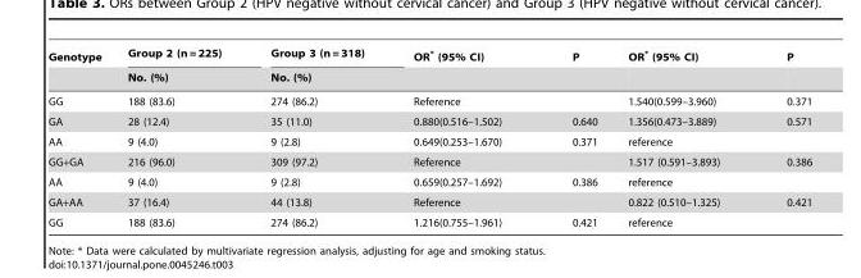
<table><thead><tr><td rowspan="2">Genotype</td><td rowspan="2">Group 2 (n = 225) No. (%)</td><td rowspan="2">Group 3 (n = 318) No. (%)</td><td rowspan="2">OR* (95% CI)</td><td rowspan="2">P</td><td rowspan="2">OR* (95% CI)</td><td rowspan="2">P</td></tr><tr></tr></thead><tbody><tr><td>GG</td><td>188 (83.6)</td><td>274 (86.2)</td><td>Reference</td><td></td><td>1.540(0.599–3.960)</td><td>0.371</td></tr><tr><td>GA</td><td>28 (12.4)</td><td>35 (11.0)</td><td>0.880(0.516–1.502)</td><td>0.640</td><td>1.356(0.473–3.889)</td><td>0.571</td></tr><tr><td>AA</td><td>9 (4.0)</td><td>9 (2.8)</td><td>0.649(0.253–1.670)</td><td>0.371</td><td>reference</td><td></td></tr><tr><td>GG+GA</td><td>216 (96.0)</td><td>309 (97.2)</td><td>Reference</td><td></td><td>1.517 (0.591–3.893)</td><td>0.386</td></tr><tr><td>AA</td><td>9 (4.0)</td><td>9 (2.8)</td><td>0.659(0.257–1.692)</td><td>0.386</td><td>reference</td><td></td></tr><tr><td>GA+AA</td><td>37 (16.4)</td><td>44 (13.8)</td><td>Reference</td><td></td><td>0.822 (0.510–1.325)</td><td>0.421</td></tr><tr><td>GG</td><td>188 (83.6)</td><td>274 (86.2)</td><td>1.216(0.755–1.961)</td><td>0.421</td><td>reference</td><td></td></tr></tbody></table>